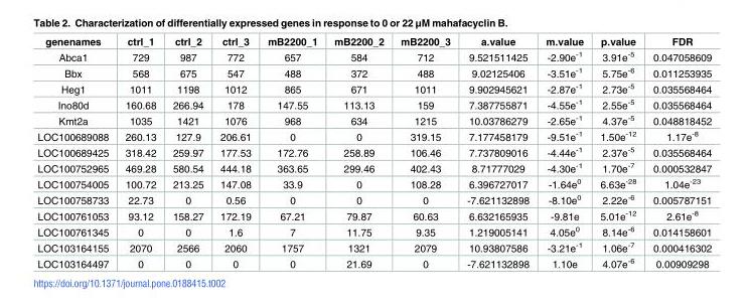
<table><thead><tr><td>genenames</td><td>ctrl_1</td><td>ctrl_2</td><td>ctrl_3</td><td>mB2200_1</td><td>mB2200_2</td><td>mB2200_3</td><td>a.value</td><td>m.value</td><td>p.value</td><td>FDR</td></tr></thead><tbody><tr><td>Abca1</td><td>729</td><td>987</td><td>772</td><td>657</td><td>584</td><td>712</td><td>9.521511425</td><td>-2.90e<sup>-1</sup></td><td>3.91e<sup>-5</sup></td><td>0.047058609</td></tr><tr><td>Bbx</td><td>568</td><td>675</td><td>547</td><td>488</td><td>372</td><td>488</td><td>9.02125406</td><td>-3.51e<sup>-1</sup></td><td>5.75e<sup>-6</sup></td><td>0.011253935</td></tr><tr><td>Heg1</td><td>1011</td><td>1198</td><td>1012</td><td>865</td><td>671</td><td>1011</td><td>9.902945621</td><td>-2.87e<sup>-1</sup></td><td>2.73e<sup>-5</sup></td><td>0.035568464</td></tr><tr><td>Ino80d</td><td>160.68</td><td>266.94</td><td>178</td><td>147.55</td><td>113.13</td><td>159</td><td>7.387755871</td><td>-4.55e<sup>-1</sup></td><td>2.55e<sup>-5</sup></td><td>0.035568464</td></tr><tr><td>Kmt2a</td><td>1035</td><td>1421</td><td>1076</td><td>968</td><td>634</td><td>1215</td><td>10.03786279</td><td>-2.65e<sup>-1</sup></td><td>4.37e<sup>-5</sup></td><td>0.048818452</td></tr><tr><td>LOC100689088</td><td>260.13</td><td>127.9</td><td>206.61</td><td>0</td><td>0</td><td>319.15</td><td>7.177458179</td><td>-9.51e<sup>-1</sup></td><td>1.50e<sup>-12</sup></td><td>1.17e<sup>-8</sup></td></tr><tr><td>LOC100689425</td><td>318.42</td><td>259.97</td><td>177.53</td><td>172.76</td><td>258.89</td><td>106.46</td><td>7.737809016</td><td>-4.44e<sup>-1</sup></td><td>2.37e<sup>-5</sup></td><td>0.035568464</td></tr><tr><td>LOC100752965</td><td>469.28</td><td>580.54</td><td>444.18</td><td>363.65</td><td>299.46</td><td>402.43</td><td>8.71777029</td><td>-4.30e<sup>-1</sup></td><td>1.70e<sup>-7</sup></td><td>0.000532847</td></tr><tr><td>LOC100754005</td><td>100.72</td><td>213.25</td><td>147.08</td><td>33.9</td><td>0</td><td>108.28</td><td>6.396727017</td><td>-1.64e<sup>0</sup></td><td>6.63e<sup>-28</sup></td><td>1.04e<sup>-23</sup></td></tr><tr><td>LOC100758733</td><td>22.73</td><td>0</td><td>0.56</td><td>0</td><td>0</td><td>0</td><td>-7.621132898</td><td>-8.10e<sup>0</sup></td><td>2.22e<sup>-6</sup></td><td>0.005787151</td></tr><tr><td>LOC100761053</td><td>93.12</td><td>158.27</td><td>172.19</td><td>67.21</td><td>79.87</td><td>60.63</td><td>6.632165935</td><td>-9.81e</td><td>5.01e<sup>-12</sup></td><td>2.61e<sup>-8</sup></td></tr><tr><td>LOC100761345</td><td>0</td><td>0</td><td>1.6</td><td>7</td><td>11.75</td><td>9.35</td><td>1.219005141</td><td>4.05e<sup>0</sup></td><td>8.14e<sup>-6</sup></td><td>0.014158601</td></tr><tr><td>LOC103164155</td><td>2070</td><td>2566</td><td>2060</td><td>1757</td><td>1321</td><td>2079</td><td>10.93807586</td><td>-3.21e<sup>-1</sup></td><td>1.06e<sup>-7</sup></td><td>0.000416302</td></tr><tr><td>LOC103164497</td><td>0</td><td>0</td><td>0</td><td>0</td><td>21.69</td><td>0</td><td>-7.621132898</td><td>1.10e</td><td>4.07e<sup>-6</sup></td><td>0.00909298</td></tr></tbody></table>